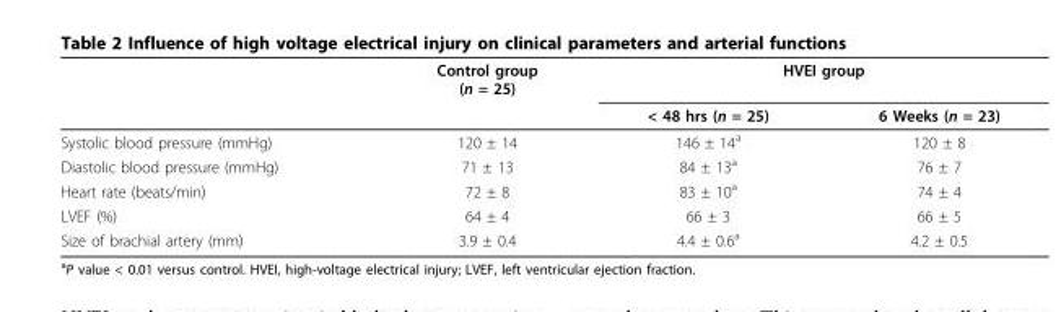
<table><thead><tr><td rowspan="2"></td><td rowspan="2">Control group (n = 25)</td><td colspan="2">HVEI group</td></tr><tr><td>&lt; 48 hrs (n = 25)</td><td>6 Weeks (n = 23)</td></tr></thead><tbody><tr><td>Systolic blood pressure (mmHg)</td><td>120 ± 14</td><td>146 ± 14<sup>a</sup></td><td>120 ± 8</td></tr><tr><td>Diastolic blood pressure (mmHg)</td><td>71 ± 13</td><td>84 ± 13<sup>a</sup></td><td>76 ± 7</td></tr><tr><td>Heart rate (beats/min)</td><td>72 ± 8</td><td>83 ± 10<sup>a</sup></td><td>74 ± 4</td></tr><tr><td>LVEF (%)</td><td>64 ± 4</td><td>66 ± 3</td><td>66 ± 5</td></tr><tr><td>Size of brachial artery (mm)</td><td>3.9 ± 0.4</td><td>4.4 ± 0.6<sup>a</sup></td><td>4.2 ± 0.5</td></tr></tbody></table>